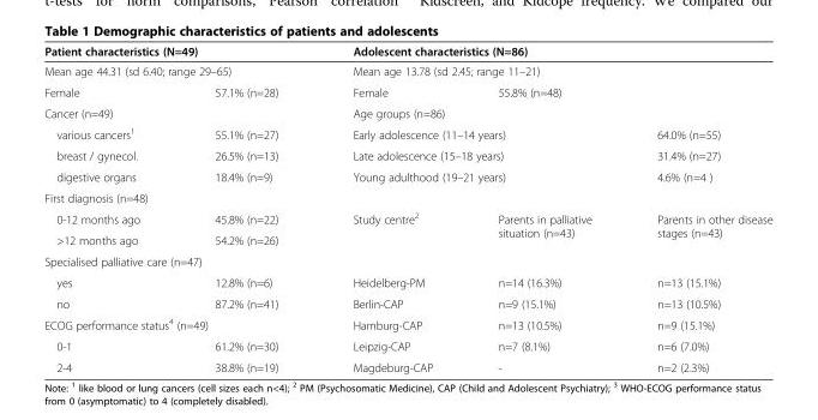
<table><thead><tr><td rowspan="2" colspan="2">Patient characteristics (N=49) Mean age 44.31 (sd 6.40; range 29–65)</td><td rowspan="2" colspan="3">Adolescent characteristics (N=86) Mean age 13.78 (sd 2.45; range 11–21)</td></tr><tr></tr><tr><td>Female</td><td>57.1% (n=28)</td><td>Female</td><td>55.8% (n=48)</td><td></td></tr></thead><tbody><tr><td>Cancer (n=49)</td><td></td><td colspan="2">Age groups (n=86)</td><td></td></tr><tr><td>various cancers<sup>1</sup></td><td>55.1% (n=27)</td><td colspan="2">Early adolescence (11–14 years)</td><td>64.0% (n=55)</td></tr><tr><td>breast / gynecol.</td><td>26.5% (n=13)</td><td colspan="2">Late adolescence (15–18 years)</td><td>31.4% (n=27)</td></tr><tr><td>digestive organs</td><td>18.4% (n=9)</td><td colspan="2">Young adulthood (19–21 years)</td><td>4.6% (n=4 )</td></tr><tr><td colspan="5">First diagnosis (n=48)</td></tr><tr><td>0-12 months ago</td><td>45.8% (n=22)</td><td rowspan="3">Study centre<sup>2</sup></td><td rowspan="3">Parents in palliative situation (n=43)</td><td rowspan="3">Parents in other disease stages (n=43)</td></tr><tr><td>&gt;12 months ago</td><td>54.2% (n=26)</td></tr><tr><td colspan="2">Specialised palliative care (n=47)</td></tr><tr><td>yes</td><td>12.8% (n=6)</td><td>Heidelberg-PM</td><td>n=14 (16.3%)</td><td>n=13 (15.1%)</td></tr><tr><td>no</td><td>87.2% (n=41)</td><td>Berlin-CAP</td><td>n=9 (15.1%)</td><td>n=13 (10.5%)</td></tr><tr><td colspan="2">ECOG performance status<sup>4</sup> (n=49)</td><td>Hamburg-CAP</td><td>n=13 (10.5%)</td><td>n=9 (15.1%)</td></tr><tr><td>0-1</td><td>61.2% (n=30)</td><td>Leipzig-CAP</td><td>n=7 (8.1%)</td><td>n=6 (7.0%)</td></tr><tr><td>2-4</td><td>38.8% (n=19)</td><td>Magdeburg-CAP</td><td>-</td><td>n=2 (2.3%)</td></tr></tbody></table>